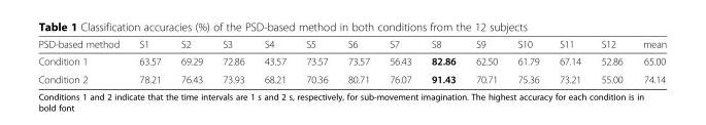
<table><thead><tr><td>PSD-based method</td><td>S1</td><td>S2</td><td>S3</td><td>S4</td><td>S5</td><td>S6</td><td>S7</td><td>S8</td><td>S9</td><td>S10</td><td>S11</td><td>S12</td><td>mean</td></tr></thead><tbody><tr><td>Condition 1</td><td>63.57</td><td>69.29</td><td>72.86</td><td>43.57</td><td>73.57</td><td>73.57</td><td>56.43</td><td>82.86</td><td>62.50</td><td>61.79</td><td>67.14</td><td>52.86</td><td>65.00</td></tr><tr><td>Condition 2</td><td>78.21</td><td>76.43</td><td>73.93</td><td>68.21</td><td>70.36</td><td>80.71</td><td>76.07</td><td>91.43</td><td>70.71</td><td>75.36</td><td>73.21</td><td>55.00</td><td>74.14</td></tr></tbody></table>